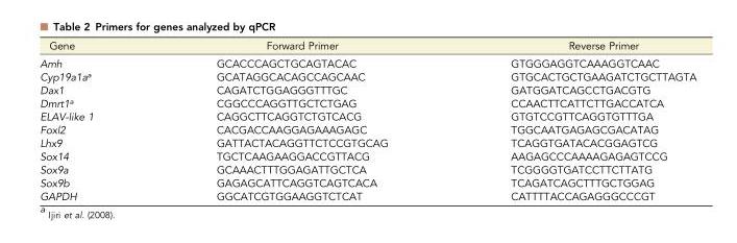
<table><thead><tr><td>Gene</td><td>Forward Primer</td><td>Reverse Primer</td></tr></thead><tbody><tr><td>Amh</td><td>GCACCCAGCTGCAGTACAC</td><td>GTGGGAGGTCAAAGGTCAAC</td></tr><tr><td>Cyp19a1a<sup>a</sup></td><td>GCATAGGCACAGCCAGCAAC</td><td>GTGCACTGCTGAAGATCTGCTTAGTA</td></tr><tr><td>Dax1</td><td>CAGATCTGGAGGGTTTGC</td><td>GATGGATCAGCCTGACGTG</td></tr><tr><td>Dmrt1<sup>a</sup></td><td>CGGCCCAGGTTGCTCTGAG</td><td>CCAACTTCATTCTTGACCATCA</td></tr><tr><td>ELAV-like 1</td><td>CAGGCTTCAGGTCTGTCACG</td><td>GTGTCCGTTCAGGTGTTTGA</td></tr><tr><td>Foxl2</td><td>CACGACCAAGGAGAAAGAGC</td><td>TGGCAATGAGAGCGACATAG</td></tr><tr><td>Lhx9</td><td>GATTACTACAGGTTCTCCGTGCAG</td><td>TCAGGTGATACACGGAGTCG</td></tr><tr><td>Sox14</td><td>TGCTCAAGAAGGACCGTTACG</td><td>AAGAGCCCAAAAGAGAGTCCG</td></tr><tr><td>Sox9a</td><td>GCAAACTTTGGAGATTGCTCA</td><td>TCGGGGTGATCCTTCTTATG</td></tr><tr><td>Sox9b</td><td>GAGAGCATTCAGGTCAGTCACA</td><td>TCAGATCAGCTTTGCTGGAG</td></tr><tr><td>GAPDH</td><td>GGCATCGTGGAAGGTCTCAT</td><td>CATTTTACCAGAGGGCCCGT</td></tr></tbody></table>